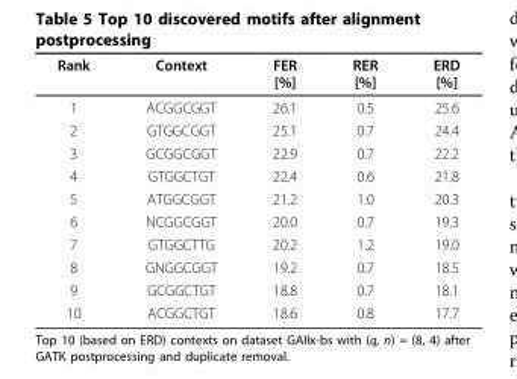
<table><thead><tr><td>Rank</td><td>Context</td><td>FER [%]</td><td>RER [%]</td><td>ERD [%]</td></tr></thead><tbody><tr><td>1</td><td>ACGGCGGT</td><td>26.1</td><td>0.5</td><td>25.6</td></tr><tr><td>2</td><td>GTGGCGGT</td><td>25.1</td><td>0.7</td><td>24.4</td></tr><tr><td>3</td><td>GCGGCGGT</td><td>22.9</td><td>0.7</td><td>22.2</td></tr><tr><td>4</td><td>GTGGCTGT</td><td>22.4</td><td>0.6</td><td>21.8</td></tr><tr><td>5</td><td>ATGGCGGT</td><td>21.2</td><td>1.0</td><td>20.3</td></tr><tr><td>6</td><td>NCGGCGGT</td><td>20.0</td><td>0.7</td><td>19.3</td></tr><tr><td>7</td><td>GTGGCTTG</td><td>20.2</td><td>1.2</td><td>19.0</td></tr><tr><td>8</td><td>GNGGCGGT</td><td>19.2</td><td>0.7</td><td>18.5</td></tr><tr><td>9</td><td>GCGGCTGT</td><td>18.8</td><td>0.7</td><td>18.1</td></tr><tr><td>10</td><td>ACGGCTGT</td><td>18.6</td><td>0.8</td><td>17.7</td></tr></tbody></table>